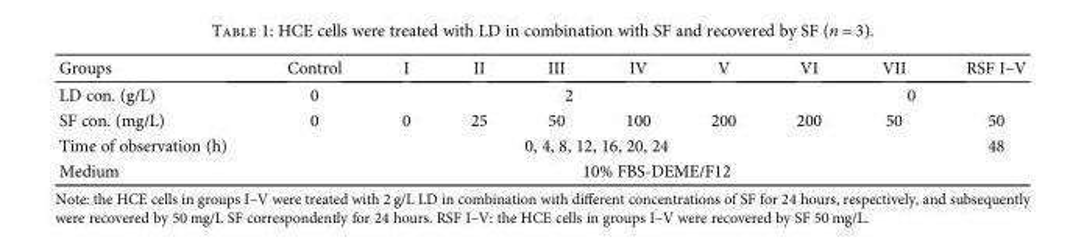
<table><thead><tr><td>Groups</td><td>Control</td><td>I</td><td>II</td><td>III</td><td>IV</td><td>V</td><td>VI</td><td>VII</td><td>RSF I–V</td></tr></thead><tbody><tr><td>LD con. (g/L)</td><td>0</td><td colspan="5">2</td><td colspan="3">0</td></tr><tr><td>SF con. (mg/L)</td><td>0</td><td>0</td><td>25</td><td>50</td><td>100</td><td>200</td><td>200</td><td>50</td><td>50</td></tr><tr><td>Time of observation (h)</td><td colspan="8">0, 4, 8, 12, 16, 20, 24</td><td>48</td></tr><tr><td>Medium</td><td colspan="9">10% FBS-DEME/F12</td></tr></tbody></table>